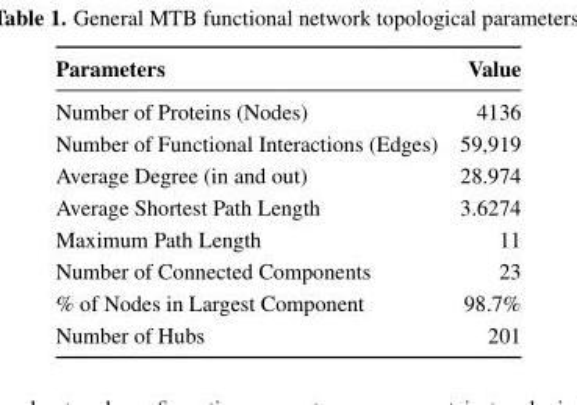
<table><thead><tr><td>Parameters</td><td>Value</td></tr></thead><tbody><tr><td>Number of Proteins (Nodes)</td><td>4136</td></tr><tr><td>Number of Functional Interactions (Edges)</td><td>59,919</td></tr><tr><td>Average Degree (in and out)</td><td>28.974</td></tr><tr><td>Average Shortest Path Length</td><td>3.6274</td></tr><tr><td>Maximum Path Length</td><td>11</td></tr><tr><td>Number of Connected Components</td><td>23</td></tr><tr><td>% of Nodes in Largest Component</td><td>98.7%</td></tr><tr><td>Number of Hubs</td><td>201</td></tr></tbody></table>